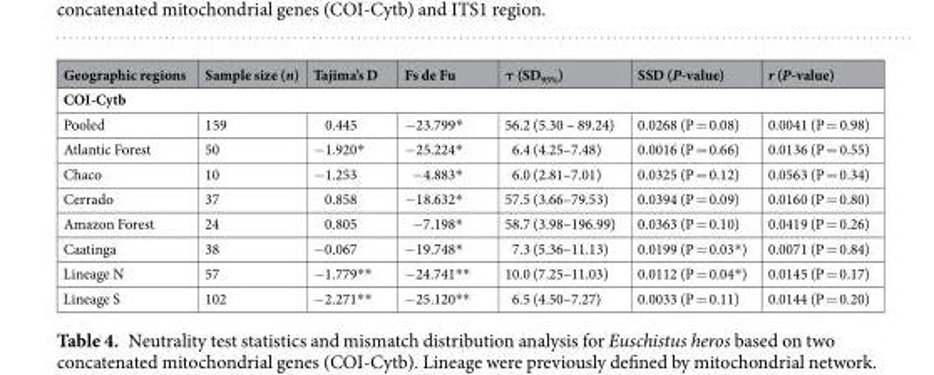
<table><thead><tr><td>Geographic regions</td><td>Sample size (n)</td><td>Tajima’s D</td><td>Fs de Fu</td><td>τ (SD<sub>95%</sub>)</td><td>SSD (P-value)</td><td>r (P-value)</td></tr></thead><tbody><tr><td colspan="7">COI-Cytb</td></tr><tr><td>Pooled</td><td>159</td><td>0.445</td><td>−23.799*</td><td>56.2 (5.30 – 89.24)</td><td>0.0268 (P = 0.08)</td><td>0.0041 (P = 0.98)</td></tr><tr><td>Atlantic Forest</td><td>50</td><td>−1.920*</td><td>−25.224*</td><td>6.4 (4.25–7.48)</td><td>0.0016 (P = 0.66)</td><td>0.0136 (P = 0.55)</td></tr><tr><td>Chaco</td><td>10</td><td>−1.253</td><td>−4.883*</td><td>6.0 (2.81–7.01)</td><td>0.0325 (P = 0.12)</td><td>0.0563 (P = 0.34)</td></tr><tr><td>Cerrado</td><td>37</td><td>0.858</td><td>−18.632*</td><td>57.5 (3.66–79.53)</td><td>0.0394 (P = 0.09)</td><td>0.0160 (P = 0.80)</td></tr><tr><td>Amazon Forest</td><td>24</td><td>0.805</td><td>−7.198*</td><td>58.7 (3.98–196.99)</td><td>0.0363 (P = 0.10)</td><td>0.0419 (P = 0.26)</td></tr><tr><td>Caatinga</td><td>38</td><td>−0.067</td><td>−19.748*</td><td>7.3 (5.36–11.13)</td><td>0.0199 (P = 0.03*)</td><td>0.0071 (P = 0.84)</td></tr><tr><td>Lineage N</td><td>57</td><td>−1.779**</td><td>−24.741**</td><td>10.0 (7.25–11.03)</td><td>0.0112 (P = 0.04*)</td><td>0.0145 (P = 0.17)</td></tr><tr><td>Lineage S</td><td>102</td><td>−2.271**</td><td>−25.120**</td><td>6.5 (4.50–7.27)</td><td>0.0033 (P = 0.11)</td><td>0.0144 (P = 0.20)</td></tr></tbody></table>